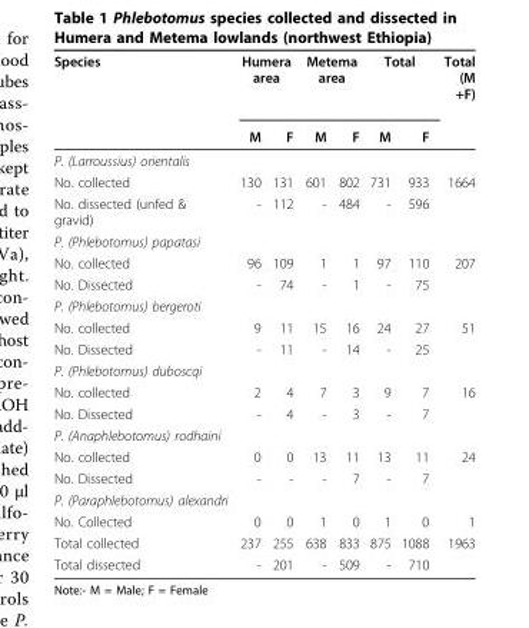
<table><thead><tr><td rowspan="2">Species</td><td colspan="2">Humera area</td><td colspan="2">Metema area</td><td colspan="2">Total</td><td rowspan="2">Total (M +F)</td></tr><tr><td>M</td><td>F</td><td>M</td><td>F</td><td>M</td><td>F</td></tr></thead><tbody><tr><td colspan="8">P. (Larroussius) orientalis</td></tr><tr><td>No. collected</td><td>130</td><td>131</td><td>601</td><td>802</td><td>731</td><td>933</td><td>1664</td></tr><tr><td>No. dissected (unfed &amp; gravid)</td><td>-</td><td>112</td><td>-</td><td>484</td><td>-</td><td>596</td><td></td></tr><tr><td colspan="8">P. (Phlebotomus) papatasi</td></tr><tr><td>No. collected</td><td>96</td><td>109</td><td>1</td><td>1</td><td>97</td><td>110</td><td>207</td></tr><tr><td>No. Dissected</td><td>-</td><td>74</td><td>-</td><td>1</td><td>-</td><td>75</td><td></td></tr><tr><td colspan="8">P. (Phlebotomus) bergeroti</td></tr><tr><td>No. collected</td><td>9</td><td>11</td><td>15</td><td>16</td><td>24</td><td>27</td><td>51</td></tr><tr><td>No. Dissected</td><td>-</td><td>11</td><td>-</td><td>14</td><td>-</td><td>25</td><td></td></tr><tr><td colspan="8">P. (Phlebotomus) duboscqi</td></tr><tr><td>No. collected</td><td>2</td><td>4</td><td>7</td><td>3</td><td>9</td><td>7</td><td>16</td></tr><tr><td>No. Dissected</td><td>-</td><td>4</td><td>-</td><td>3</td><td>-</td><td>7</td><td></td></tr><tr><td colspan="8">P. (Anaphlebotomus) rodhaini</td></tr><tr><td>No. collected</td><td>0</td><td>0</td><td>13</td><td>11</td><td>13</td><td>11</td><td>24</td></tr><tr><td>No. Dissected</td><td>-</td><td>-</td><td>-</td><td>7</td><td>-</td><td>7</td><td></td></tr><tr><td colspan="8">P. (Paraphlebotomus) alexandri</td></tr><tr><td>No. Collected</td><td>0</td><td>0</td><td>1</td><td>0</td><td>1</td><td>0</td><td>1</td></tr><tr><td>Total collected</td><td>237</td><td>255</td><td>638</td><td>833</td><td>875</td><td>1088</td><td>1963</td></tr><tr><td>Total dissected</td><td>-</td><td>201</td><td>-</td><td>509</td><td>-</td><td>710</td><td></td></tr></tbody></table>